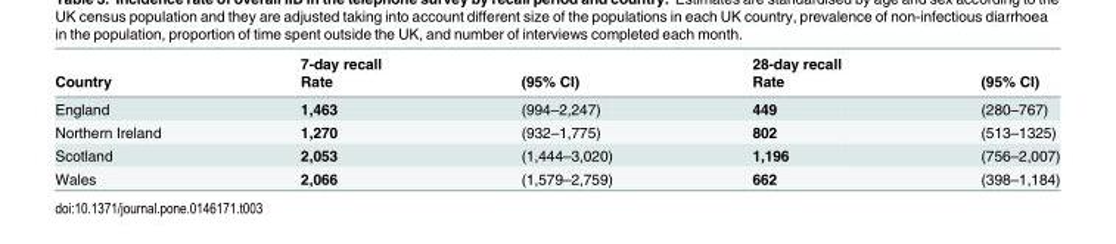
<table><thead><tr><td rowspan="2">Country</td><td rowspan="2">7-day recall Rate</td><td rowspan="2">(95% CI)</td><td rowspan="2">28-day recall Rate</td><td rowspan="2">(95% CI)</td></tr><tr></tr></thead><tbody><tr><td>England</td><td>1,463</td><td>(994–2,247)</td><td>449</td><td>(280–767)</td></tr><tr><td>Northern Ireland</td><td>1,270</td><td>(932–1,775)</td><td>802</td><td>(513–1325)</td></tr><tr><td>Scotland</td><td>2,053</td><td>(1,444–3,020)</td><td>1,196</td><td>(756–2,007)</td></tr><tr><td>Wales</td><td>2,066</td><td>(1,579–2,759)</td><td>662</td><td>(398–1,184)</td></tr></tbody></table>